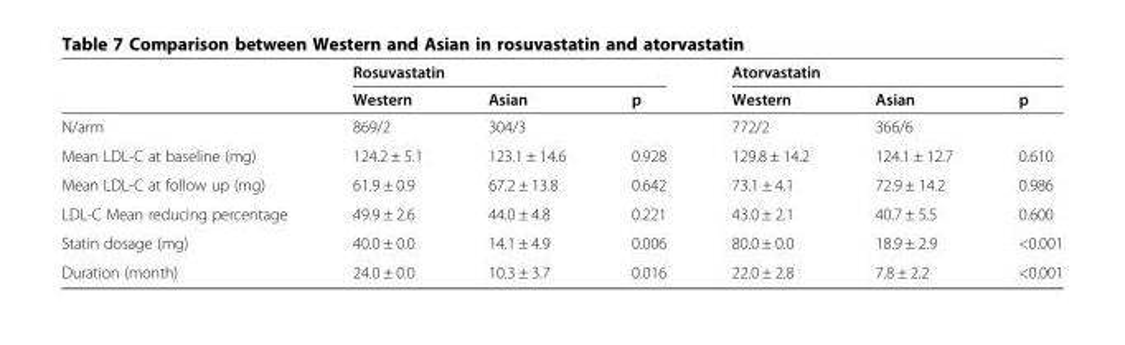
<table><thead><tr><td rowspan="2"></td><td colspan="3">Rosuvastatin</td><td colspan="3">Atorvastatin</td></tr><tr><td>Western</td><td>Asian</td><td>p</td><td>Western</td><td>Asian</td><td>p</td></tr></thead><tbody><tr><td>N/arm</td><td>869/2</td><td>304/3</td><td></td><td>772/2</td><td>366/6</td><td></td></tr><tr><td>Mean LDL-C at baseline (mg)</td><td>124.2 ± 5.1</td><td>123.1 ± 14.6</td><td>0.928</td><td>129.8 ± 14.2</td><td>124.1 ± 12.7</td><td>0.610</td></tr><tr><td>Mean LDL-C at follow up (mg)</td><td>61.9 ± 0.9</td><td>67.2 ± 13.8</td><td>0.642</td><td>73.1 ± 4.1</td><td>72.9 ± 14.2</td><td>0.986</td></tr><tr><td>LDL-C Mean reducing percentage</td><td>49.9 ± 2.6</td><td>44.0 ± 4.8</td><td>0.221</td><td>43.0 ± 2.1</td><td>40.7 ± 5.5</td><td>0.600</td></tr><tr><td>Statin dosage (mg)</td><td>40.0 ± 0.0</td><td>14.1 ± 4.9</td><td>0.006</td><td>80.0 ± 0.0</td><td>18.9 ± 2.9</td><td>&lt;0.001</td></tr><tr><td>Duration (month)</td><td>24.0 ± 0.0</td><td>10.3 ± 3.7</td><td>0.016</td><td>22.0 ± 2.8</td><td>7.8 ± 2.2</td><td>&lt;0.001</td></tr></tbody></table>